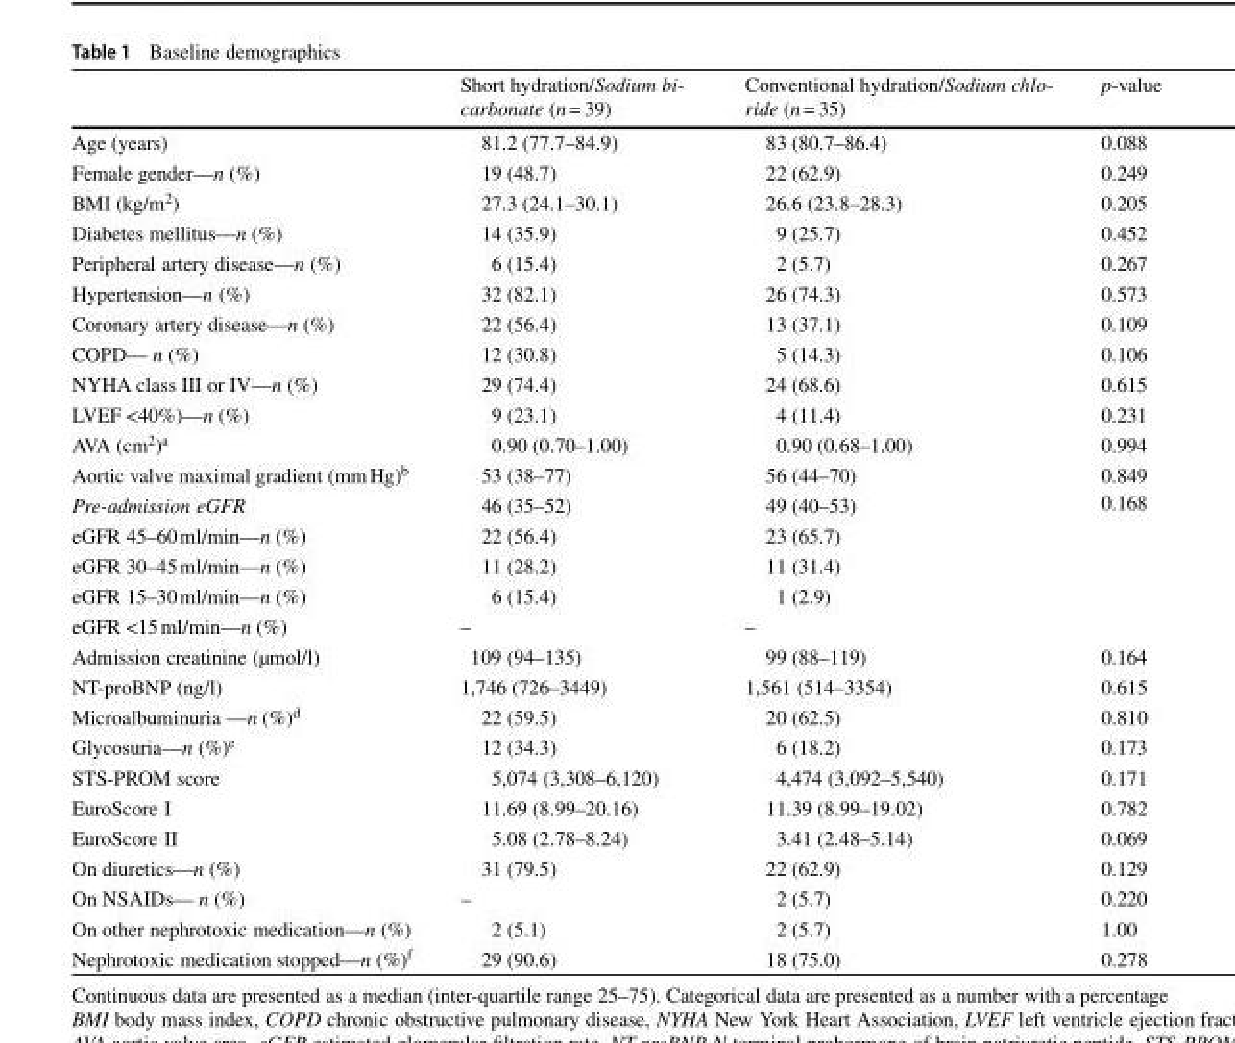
<table><thead><tr><td></td><td>Short hydration/Sodium bi- carbonate (n= 39)</td><td>Conventional hydration/Sodium chlo- ride (n= 35)</td><td>p-value</td></tr></thead><tbody><tr><td>Age (years)</td><td>81.2 (77.7–84.9)</td><td>83 (80.7–86.4)</td><td>0.088</td></tr><tr><td>Female gender—n (%)</td><td>19 (48.7)</td><td>22 (62.9)</td><td>0.249</td></tr><tr><td>BMI (kg/m<sup>2</sup>)</td><td>27.3 (24.1–30.1)</td><td>26.6 (23.8–28.3)</td><td>0.205</td></tr><tr><td>Diabetes mellitus—n (%)</td><td>14 (35.9)</td><td>9 (25.7)</td><td>0.452</td></tr><tr><td>Peripheral artery disease—n (%)</td><td>6 (15.4)</td><td>2 (5.7)</td><td>0.267</td></tr><tr><td>Hypertension—n (%)</td><td>32 (82.1)</td><td>26 (74.3)</td><td>0.573</td></tr><tr><td>Coronary artery disease—n (%)</td><td>22 (56.4)</td><td>13 (37.1)</td><td>0.109</td></tr><tr><td>COPD— n (%)</td><td>12 (30.8)</td><td>5 (14.3)</td><td>0.106</td></tr><tr><td>NYHA class III or IV—n (%)</td><td>29 (74.4)</td><td>24 (68.6)</td><td>0.615</td></tr><tr><td>LVEF &lt;40%)—n (%)</td><td>9 (23.1)</td><td>4 (11.4)</td><td>0.231</td></tr><tr><td>AVA (cm<sup>2</sup>)<sup>a</sup></td><td>0.90 (0.70–1.00)</td><td>0.90 (0.68–1.00)</td><td>0.994</td></tr><tr><td>Aortic valve maximal gradient (mmHg)<sup>b</sup></td><td>53 (38–77)</td><td>56 (44–70)</td><td>0.849</td></tr><tr><td>Pre-admission eGFR</td><td>46 (35–52)</td><td>49 (40–53)</td><td rowspan="5">0.168</td></tr><tr><td>eGFR 45–60ml/min—n (%)</td><td>22 (56.4)</td><td>23 (65.7)</td></tr><tr><td>eGFR 30–45ml/min—n (%)</td><td>11 (28.2)</td><td>11 (31.4)</td></tr><tr><td>eGFR 15–30ml/min—n (%)</td><td>6 (15.4)</td><td>1 (2.9)</td></tr><tr><td>eGFR &lt;15ml/min—n (%)</td><td>–</td><td>–</td></tr><tr><td>Admission creatinine (µmol/l)</td><td>109 (94–135)</td><td>99 (88–119)</td><td>0.164</td></tr><tr><td>NT-proBNP (ng/l)</td><td>1,746 (726–3449)</td><td>1,561 (514–3354)</td><td>0.615</td></tr><tr><td>Microalbuminuria —n (%)<sup>d</sup></td><td>22 (59.5)</td><td>20 (62.5)</td><td>0.810</td></tr><tr><td>Glycosuria—n (%)<sup>e</sup></td><td>12 (34.3)</td><td>6 (18.2)</td><td>0.173</td></tr><tr><td>STS-PROM score</td><td>5,074 (3,308–6,120)</td><td>4,474 (3,092–5,540)</td><td>0.171</td></tr><tr><td>EuroScore I</td><td>11.69 (8.99–20.16)</td><td>11.39 (8.99–19.02)</td><td>0.782</td></tr><tr><td>EuroScore II</td><td>5.08 (2.78–8.24)</td><td>3.41 (2.48–5.14)</td><td>0.069</td></tr><tr><td>On diuretics—n (%)</td><td>31 (79.5)</td><td>22 (62.9)</td><td>0.129</td></tr><tr><td>On NSAIDs— n (%)</td><td>–</td><td>2 (5.7)</td><td>0.220</td></tr><tr><td>On other nephrotoxic medication—n (%)</td><td>2 (5.1)</td><td>2 (5.7)</td><td>1.00</td></tr><tr><td>Nephrotoxic medication stopped—n (%)<sup>f</sup></td><td>29 (90.6)</td><td>18 (75.0)</td><td>0.278</td></tr></tbody></table>